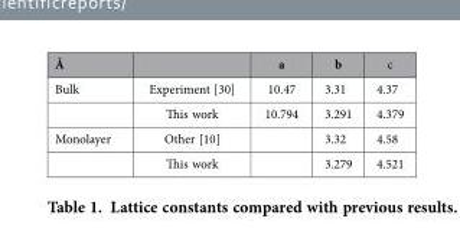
<table><thead><tr><td>Å</td><td></td><td>a</td><td>b</td><td>c</td></tr></thead><tbody><tr><td rowspan="2">Bulk</td><td>Experiment [30]</td><td>10.47</td><td>3.31</td><td>4.37</td></tr><tr><td>This work</td><td>10.794</td><td>3.291</td><td>4.379</td></tr><tr><td rowspan="2">Monolayer</td><td>Other [10]</td><td></td><td>3.32</td><td>4.58</td></tr><tr><td>This work</td><td></td><td>3.279</td><td>4.521</td></tr></tbody></table>